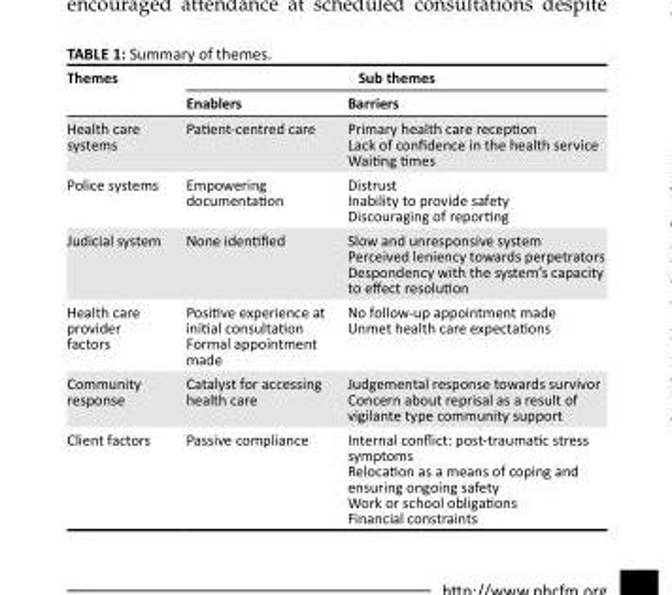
<table><thead><tr><td rowspan="2">Themes</td><td colspan="2">Sub themes</td></tr><tr><td>Enablers</td><td>Barriers</td></tr></thead><tbody><tr><td>Health care systems</td><td>Patient-centred care</td><td>Primary health care reception Lack of confidence in the health service Waiting times</td></tr><tr><td>Police systems</td><td>Empowering documentation</td><td>Distrust Inability to provide safety Discouraging of reporting</td></tr><tr><td>Judicial system</td><td>None identified</td><td>Slow and unresponsive system Perceived leniency towards perpetrators Despondency with the system’s capacity to effect resolution</td></tr><tr><td>Health care provider factors</td><td>Positive experience at initial consultation Formal appointment made</td><td>No follow-up appointment made Unmet health care expectations</td></tr><tr><td>Community response</td><td>Catalyst for accessing health care</td><td>Judgemental response towards survivor Concern about reprisal as a result of vigilante type community support</td></tr><tr><td>Client factors</td><td>Passive compliance</td><td>Internal conflict: post-traumatic stress symptoms Relocation as a means of coping and ensuring ongoing safety Work or school obligations Financial constraints</td></tr></tbody></table>